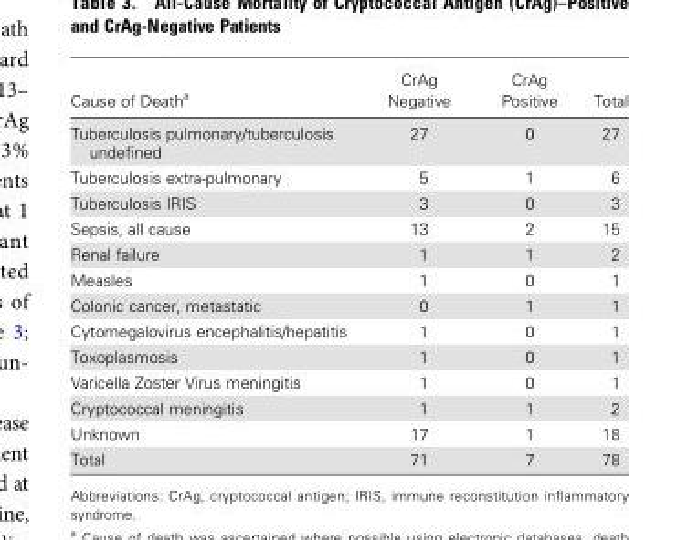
<table><thead><tr><td>Cause of Death<sup>a</sup></td><td>CrAg Negative</td><td>CrAg Positive</td><td>Total</td></tr></thead><tbody><tr><td>Tuberculosis pulmonary/tuberculosis undefined</td><td>27</td><td>0</td><td>27</td></tr><tr><td>Tuberculosis extra-pulmonary</td><td>5</td><td>1</td><td>6</td></tr><tr><td>Tuberculosis IRIS</td><td>3</td><td>0</td><td>3</td></tr><tr><td>Sepsis, all cause</td><td>13</td><td>2</td><td>15</td></tr><tr><td>Renal failure</td><td>1</td><td>1</td><td>2</td></tr><tr><td>Measles</td><td>1</td><td>0</td><td>1</td></tr><tr><td>Colonic cancer, metastatic</td><td>0</td><td>1</td><td>1</td></tr><tr><td>Cytomegalovirus encephalitis/hepatitis</td><td>1</td><td>0</td><td>1</td></tr><tr><td>Toxoplasmosis</td><td>1</td><td>0</td><td>1</td></tr><tr><td>Varicella Zoster Virus meningitis</td><td>1</td><td>0</td><td>1</td></tr><tr><td>Cryptococcal meningitis</td><td>1</td><td>1</td><td>2</td></tr><tr><td>Unknown</td><td>17</td><td>1</td><td>18</td></tr><tr><td>Total</td><td>71</td><td>7</td><td>78</td></tr></tbody></table>